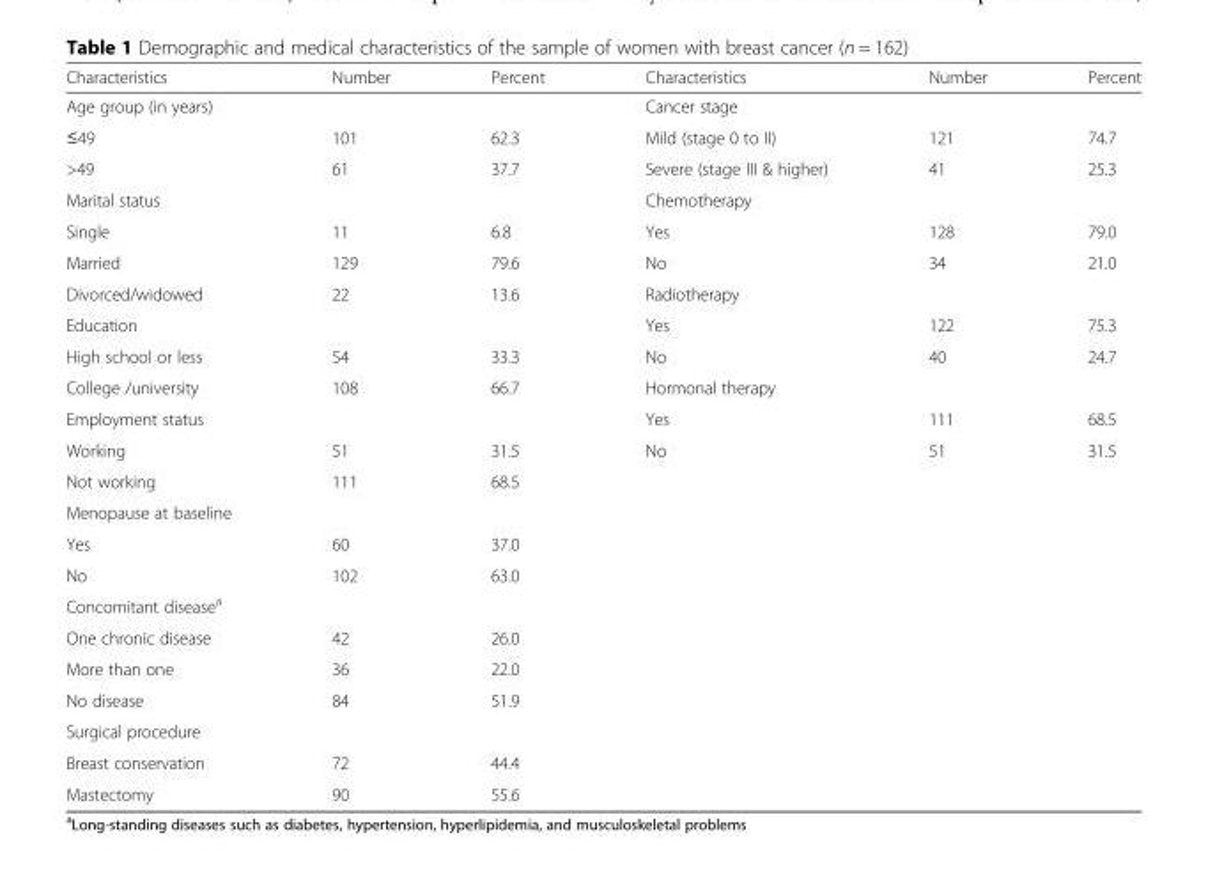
<table><thead><tr><td>Characteristics</td><td>Number</td><td>Percent</td><td>Characteristics</td><td>Number</td><td>Percent</td></tr></thead><tbody><tr><td>Age group (in years)</td><td></td><td></td><td>Cancer stage</td><td></td><td></td></tr><tr><td>≤49</td><td>101</td><td>62.3</td><td>Mild (stage 0 to II)</td><td>121</td><td>74.7</td></tr><tr><td>&gt;49</td><td>61</td><td>37.7</td><td>Severe (stage III &amp; higher)</td><td>41</td><td>25.3</td></tr><tr><td>Marital status</td><td></td><td></td><td>Chemotherapy</td><td></td><td></td></tr><tr><td>Single</td><td>11</td><td>6.8</td><td>Yes</td><td>128</td><td>79.0</td></tr><tr><td>Married</td><td>129</td><td>79.6</td><td>No</td><td>34</td><td>21.0</td></tr><tr><td>Divorced/widowed</td><td>22</td><td>13.6</td><td>Radiotherapy</td><td></td><td></td></tr><tr><td>Education</td><td></td><td></td><td>Yes</td><td>122</td><td>75.3</td></tr><tr><td>High school or less</td><td>54</td><td>33.3</td><td>No</td><td>40</td><td>24.7</td></tr><tr><td>College /university</td><td>108</td><td>66.7</td><td>Hormonal therapy</td><td></td><td></td></tr><tr><td>Employment status</td><td></td><td></td><td>Yes</td><td>111</td><td>68.5</td></tr><tr><td>Working</td><td>51</td><td>31.5</td><td>No</td><td>51</td><td>31.5</td></tr><tr><td>Not working</td><td>111</td><td>68.5</td><td></td><td></td><td></td></tr><tr><td colspan="6">Menopause at baseline</td></tr><tr><td>Yes</td><td>60</td><td>37.0</td><td></td><td></td><td></td></tr><tr><td>No</td><td>102</td><td>63.0</td><td></td><td></td><td></td></tr><tr><td colspan="6">Concomitant disease<sup>a</sup></td></tr><tr><td>One chronic disease</td><td>42</td><td>26.0</td><td></td><td></td><td></td></tr><tr><td>More than one</td><td>36</td><td>22.0</td><td></td><td></td><td></td></tr><tr><td>No disease</td><td>84</td><td>51.9</td><td></td><td></td><td></td></tr><tr><td colspan="6">Surgical procedure</td></tr><tr><td>Breast conservation</td><td>72</td><td>44.4</td><td></td><td></td><td></td></tr><tr><td>Mastectomy</td><td>90</td><td>55.6</td><td></td><td></td><td></td></tr></tbody></table>